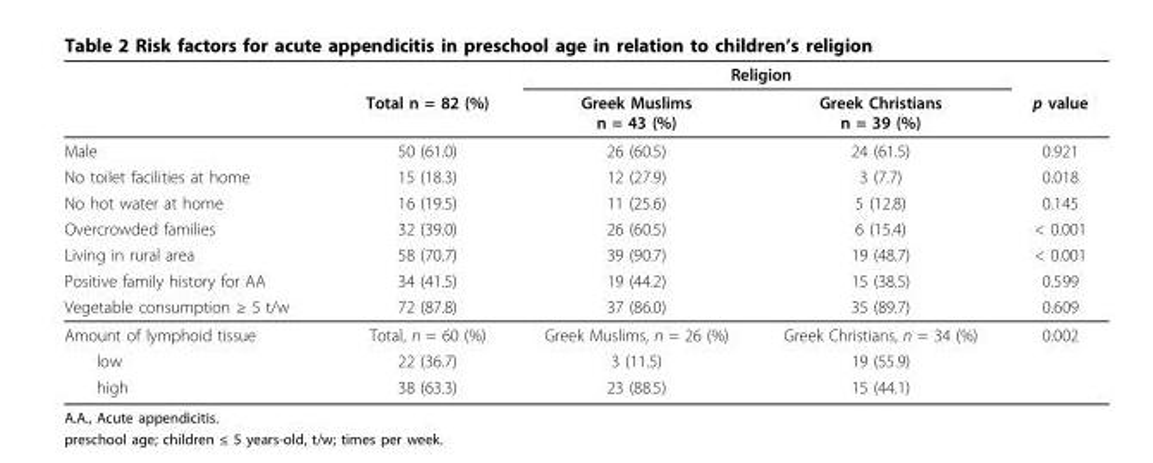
<table><thead><tr><td rowspan="2"></td><td rowspan="2">Total n = 82 (%)</td><td colspan="2">Religion</td><td rowspan="2">p value</td></tr><tr><td>Greek Muslims n = 43 (%)</td><td>Greek Christians n = 39 (%)</td></tr></thead><tbody><tr><td>Male</td><td>50 (61.0)</td><td>26 (60.5)</td><td>24 (61.5)</td><td>0.921</td></tr><tr><td>No toilet facilities at home</td><td>15 (18.3)</td><td>12 (27.9)</td><td>3 (7.7)</td><td>0.018</td></tr><tr><td>No hot water at home</td><td>16 (19.5)</td><td>11 (25.6)</td><td>5 (12.8)</td><td>0.145</td></tr><tr><td>Overcrowded families</td><td>32 (39.0)</td><td>26 (60.5)</td><td>6 (15.4)</td><td>&lt; 0.001</td></tr><tr><td>Living in rural area</td><td>58 (70.7)</td><td>39 (90.7)</td><td>19 (48.7)</td><td>&lt; 0.001</td></tr><tr><td>Positive family history for AA</td><td>34 (41.5)</td><td>19 (44.2)</td><td>15 (38.5)</td><td>0.599</td></tr><tr><td>Vegetable consumption ≥ 5 t/w</td><td>72 (87.8)</td><td>37 (86.0)</td><td>35 (89.7)</td><td>0.609</td></tr><tr><td>Amount of lymphoid tissue</td><td>Total, n = 60 (%)</td><td>Greek Muslims, n = 26 (%)</td><td>Greek Christians, n = 34 (%)</td><td>0.002</td></tr><tr><td>low</td><td>22 (36.7)</td><td>3 (11.5)</td><td>19 (55.9)</td><td></td></tr><tr><td>high</td><td>38 (63.3)</td><td>23 (88.5)</td><td>15 (44.1)</td><td></td></tr></tbody></table>